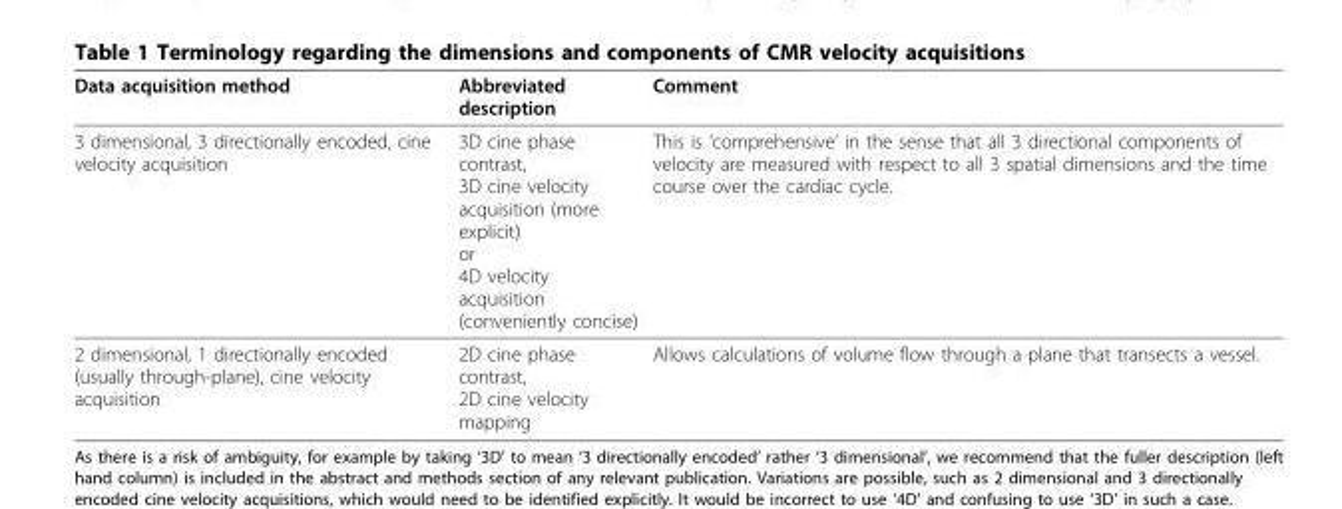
<table><thead><tr><td>Data acquisition method</td><td>Abbreviated description</td><td>Comment</td></tr></thead><tbody><tr><td>3 dimensional, 3 directionally encoded, cine velocity acquisition</td><td>3D cine phase contrast, 3D cine velocity acquisition (more explicit) or 4D velocity acquisition (conveniently concise)</td><td>This is ‘comprehensive’ in the sense that all 3 directional components of velocity are measured with respect to all 3 spatial dimensions and the time course over the cardiac cycle.</td></tr><tr><td>2 dimensional, 1 directionally encoded (usually through-plane), cine velocity acquisition</td><td>2D cine phase contrast, 2D cine velocity mapping</td><td>Allows calculations of volume flow through a plane that transects a vessel.</td></tr></tbody></table>